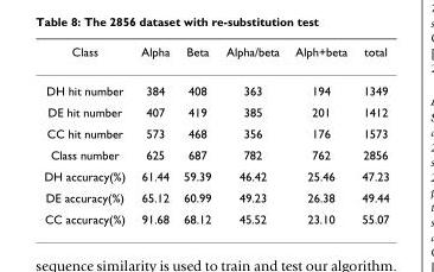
<table><thead><tr><td>Class</td><td>Alpha</td><td>Beta</td><td>Alpha/beta</td><td>Alph+beta</td><td>total</td></tr></thead><tbody><tr><td>DH hit number</td><td>384</td><td>408</td><td>363</td><td>194</td><td>1349</td></tr><tr><td>DE hit number</td><td>407</td><td>419</td><td>385</td><td>201</td><td>1412</td></tr><tr><td>CC hit number</td><td>573</td><td>468</td><td>356</td><td>176</td><td>1573</td></tr><tr><td>Class number</td><td>625</td><td>687</td><td>782</td><td>762</td><td>2856</td></tr><tr><td>DH accuracy(%)</td><td>61.44</td><td>59.39</td><td>46.42</td><td>25.46</td><td>47.23</td></tr><tr><td>DE accuracy(%)</td><td>65.12</td><td>60.99</td><td>49.23</td><td>26.38</td><td>49.44</td></tr><tr><td>CC accuracy(%)</td><td>91.68</td><td>68.12</td><td>45.52</td><td>23.10</td><td>55.07</td></tr></tbody></table>